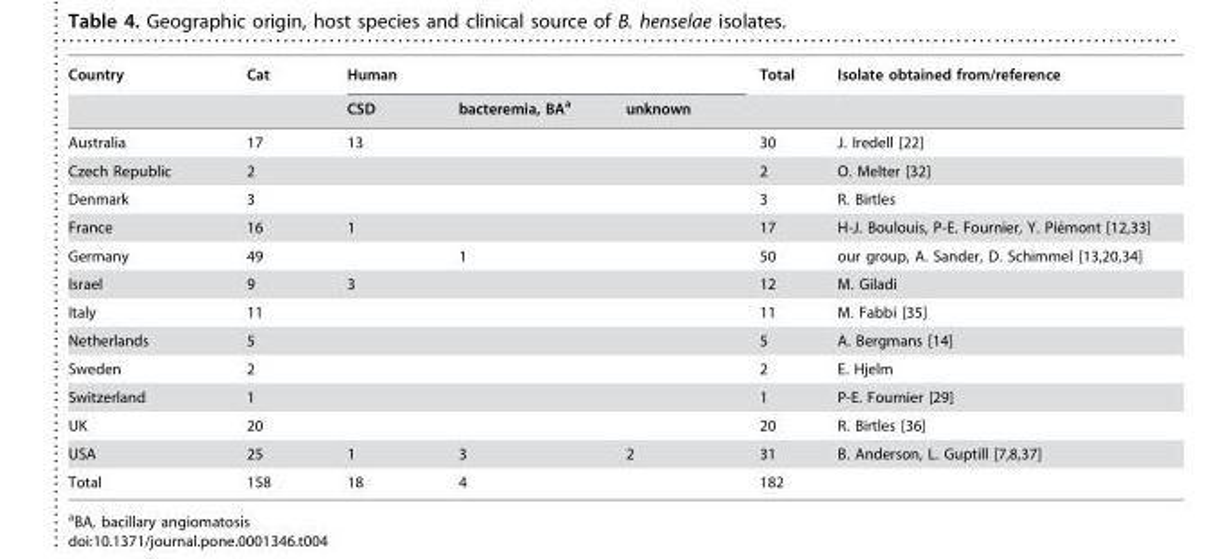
<table><thead><tr><td rowspan="2">Country</td><td rowspan="2">Cat</td><td colspan="3">Human</td><td rowspan="2">Total</td><td rowspan="2">Isolate obtained from/reference</td></tr><tr><td>CSD</td><td>bacteremia, BA<sup>a</sup></td><td>unknown</td></tr></thead><tbody><tr><td>Australia</td><td>17</td><td>13</td><td></td><td></td><td>30</td><td>J. Iredell [22]</td></tr><tr><td>Czech Republic</td><td>2</td><td></td><td></td><td></td><td>2</td><td>O. Melter [32]</td></tr><tr><td>Denmark</td><td>3</td><td></td><td></td><td></td><td>3</td><td>R. Birtles</td></tr><tr><td>France</td><td>16</td><td>1</td><td></td><td></td><td>17</td><td>H-J. Boulouis, P-E. Fournier, Y. Pie´mont [12,33]</td></tr><tr><td>Germany</td><td>49</td><td></td><td>1</td><td></td><td>50</td><td>our group, A. Sander, D. Schimmel [13,20,34]</td></tr><tr><td>Israel</td><td>9</td><td>3</td><td></td><td></td><td>12</td><td>M. Giladi</td></tr><tr><td>Italy</td><td>11</td><td></td><td></td><td></td><td>11</td><td>M. Fabbi [35]</td></tr><tr><td>Netherlands</td><td>5</td><td></td><td></td><td></td><td>5</td><td>A. Bergmans [14]</td></tr><tr><td>Sweden</td><td>2</td><td></td><td></td><td></td><td>2</td><td>E. Hjelm</td></tr><tr><td>Switzerland</td><td>1</td><td></td><td></td><td></td><td>1</td><td>P-E. Fournier [29]</td></tr><tr><td>UK</td><td>20</td><td></td><td></td><td></td><td>20</td><td>R. Birtles [36]</td></tr><tr><td>USA</td><td>25</td><td>1</td><td>3</td><td>2</td><td>31</td><td>B. Anderson, L. Guptill [7,8,37]</td></tr><tr><td>Total</td><td>158</td><td>18</td><td>4</td><td></td><td>182</td><td></td></tr></tbody></table>